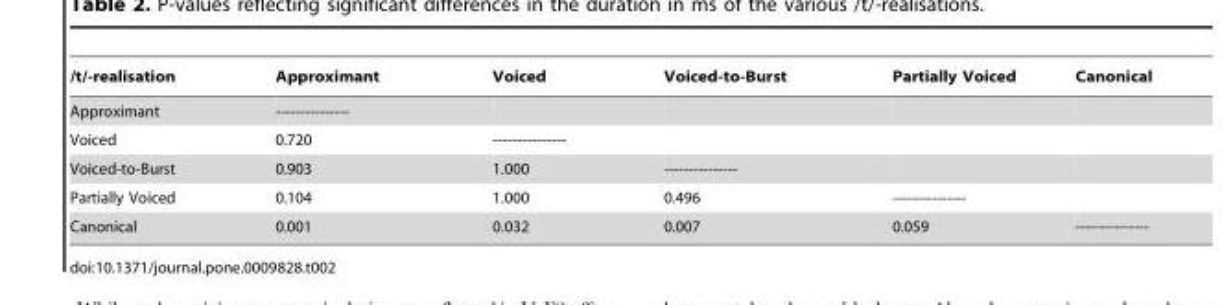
<table><thead><tr><td>/t/-realisation</td><td>Approximant</td><td>Voiced</td><td>Voiced-to-Burst</td><td>Partially Voiced</td><td>Canonical</td></tr></thead><tbody><tr><td>Approximant</td><td>---------------</td><td></td><td></td><td></td><td></td></tr><tr><td>Voiced</td><td>0.720</td><td>---------------</td><td></td><td></td><td></td></tr><tr><td>Voiced-to-Burst</td><td>0.903</td><td>1.000</td><td>---------------</td><td></td><td></td></tr><tr><td>Partially Voiced</td><td>0.104</td><td>1.000</td><td>0.496</td><td>---------------</td><td></td></tr><tr><td>Canonical</td><td>0.001</td><td>0.032</td><td>0.007</td><td>0.059</td><td>---------------</td></tr></tbody></table>